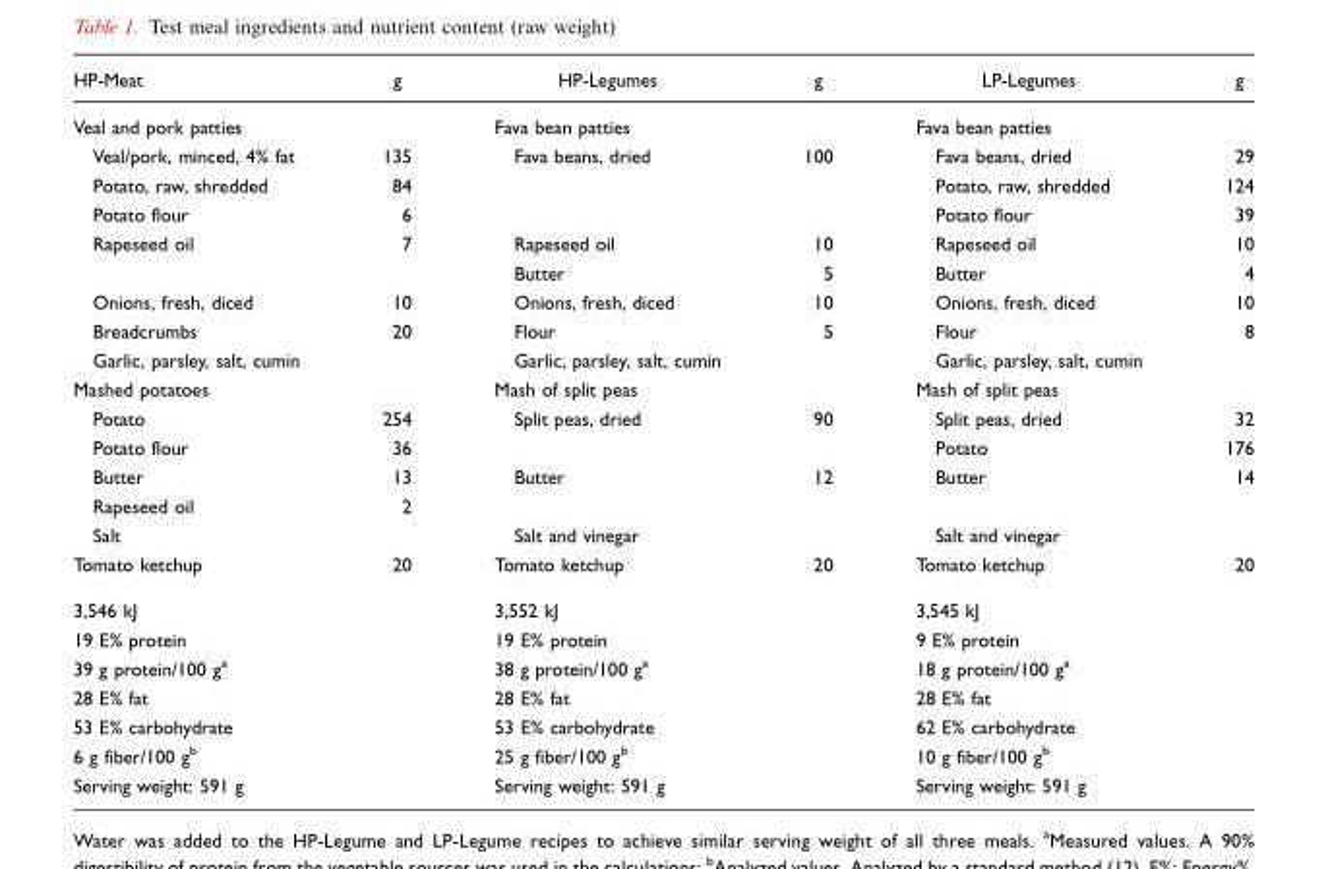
<table><thead><tr><td>HP-Meat</td><td>g</td><td>HP-Legumes</td><td>g</td><td>LP-Legumes</td><td>g</td></tr></thead><tbody><tr><td>Veal and pork patties</td><td></td><td>Fava bean patties</td><td></td><td>Fava bean patties</td><td></td></tr><tr><td>Veal/pork, minced, 4% fat</td><td>135</td><td>Fava beans, dried</td><td>100</td><td>Fava beans, dried</td><td>29</td></tr><tr><td>Potato, raw, shredded</td><td>84</td><td></td><td></td><td>Potato, raw, shredded</td><td>124</td></tr><tr><td>Potato flour</td><td>6</td><td></td><td></td><td>Potato flour</td><td>39</td></tr><tr><td rowspan="2">Rapeseed oil</td><td>7</td><td>Rapeseed oil</td><td>10</td><td>Rapeseed oil</td><td>10</td></tr><tr><td></td><td>Butter</td><td>5</td><td>Butter</td><td>4</td></tr><tr><td>Onions, fresh, diced</td><td>10</td><td>Onions, fresh, diced</td><td>10</td><td>Onions, fresh, diced</td><td>10</td></tr><tr><td>Breadcrumbs</td><td>20</td><td>Flour</td><td>5</td><td>Flour</td><td>8</td></tr><tr><td>Garlic, parsley, salt, cumin</td><td></td><td>Garlic, parsley, salt, cumin</td><td></td><td>Garlic, parsley, salt, cumin</td><td></td></tr><tr><td>Mashed potatoes</td><td></td><td>Mash of split peas</td><td></td><td>Mash of split peas</td><td></td></tr><tr><td>Potato</td><td>254</td><td>Split peas, dried</td><td>90</td><td>Split peas, dried</td><td>32</td></tr><tr><td>Potato flour</td><td>36</td><td></td><td></td><td>Potato</td><td>176</td></tr><tr><td>Butter</td><td>13</td><td>Butter</td><td>12</td><td>Butter</td><td>14</td></tr><tr><td>Rapeseed oil</td><td>2</td><td></td><td></td><td></td><td></td></tr><tr><td>Salt</td><td></td><td>Salt and vinegar</td><td></td><td>Salt and vinegar</td><td></td></tr><tr><td>Tomato ketchup</td><td>20</td><td>Tomato ketchup</td><td>20</td><td>Tomato ketchup</td><td>20</td></tr><tr><td>3,546 kJ</td><td></td><td>3,552 kJ</td><td></td><td>3,545 kJ</td><td></td></tr><tr><td>19 E% protein</td><td></td><td>19 E% protein</td><td></td><td>9 E% protein</td><td></td></tr><tr><td>39 g protein/100 g<sup>a</sup></td><td></td><td>38 g protein/100 g<sup>a</sup></td><td></td><td>18 g protein/100 g<sup>a</sup></td><td></td></tr><tr><td>28 E% fat</td><td></td><td>28 E% fat</td><td></td><td>28 E% fat</td><td></td></tr><tr><td>53 E% carbohydrate</td><td></td><td>53 E% carbohydrate</td><td></td><td>62 E% carbohydrate</td><td></td></tr><tr><td>6 g fiber/100 g<sup>b</sup></td><td></td><td>25 g fiber/100 g<sup>b</sup></td><td></td><td>10 g fiber/100 g<sup>b</sup></td><td></td></tr><tr><td>Serving weight: 591 g</td><td></td><td>Serving weight: 591 g</td><td></td><td>Serving weight: 591 g</td><td></td></tr></tbody></table>